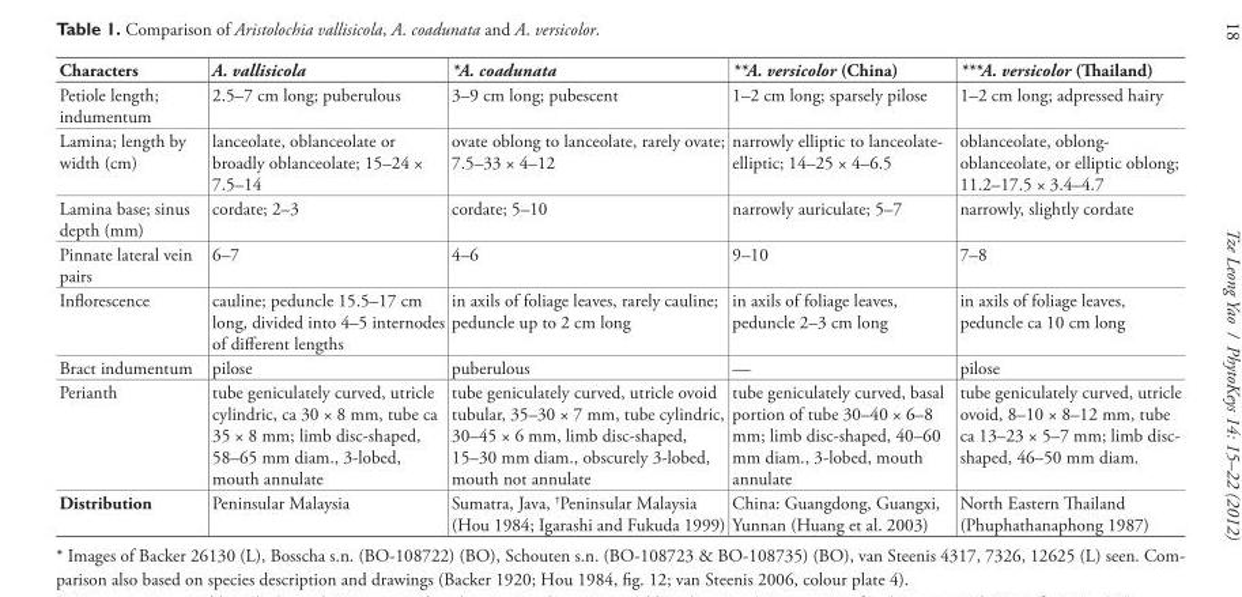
<table><thead><tr><td>Characters</td><td>A. vallisicola</td><td>*A. coadunata</td><td>**A. versicolor (China)</td><td>***A. versicolor (Th ailand)</td></tr></thead><tbody><tr><td>Petiole length; indumentum</td><td>2.5–7 cm long; puberulous</td><td>3–9 cm long; pubescent</td><td>1–2 cm long; sparsely pilose</td><td>1–2 cm long; adpressed hairy</td></tr><tr><td>Lamina; length by width (cm)</td><td>lanceolate, oblanceolate or broadly oblanceolate; 15–24 × 7.5–14</td><td>ovate oblong to lanceolate, rarely ovate; 7.5–33 × 4–12</td><td>narrowly elliptic to lanceolate- elliptic; 14–25 × 4–6.5</td><td>oblanceolate, oblong- oblanceolate, or elliptic oblong; 11.2–17.5 × 3.4–4.7</td></tr><tr><td>Lamina base; sinus depth (mm)</td><td>cordate; 2–3</td><td>cordate; 5–10</td><td>narrowly auriculate; 5–7</td><td>narrowly, slightly cordate</td></tr><tr><td>Pinnate lateral vein pairs</td><td>6–7</td><td>4–6</td><td>9–10</td><td>7–8</td></tr><tr><td>Infl orescence</td><td>cauline; peduncle 15.5–17 cm long, divided into 4–5 internodes of diff erent lengths</td><td>in axils of foliage leaves, rarely cauline; peduncle up to 2 cm long</td><td>in axils of foliage leaves, peduncle 2–3 cm long</td><td>in axils of foliage leaves, peduncle ca 10 cm long</td></tr><tr><td>Bract indumentum</td><td>pilose</td><td>puberulous</td><td>—</td><td>pilose</td></tr><tr><td>Perianth</td><td>tube geniculately curved, utricle cylindric, ca 30 × 8 mm, tube ca 35 × 8 mm; limb disc-shaped, 58–65 mm diam., 3-lobed, mouth annulate</td><td>tube geniculately curved, utricle ovoid tubular, 35–30 × 7 mm, tube cylindric, 30–45 × 6 mm, limb disc-shaped, 15–30 mm diam., obscurely 3-lobed, mouth not annulate</td><td>tube geniculately curved, basal portion of tube 30–40 × 6–8 mm; limb disc-shaped, 40–60 mm diam., 3-lobed, mouth annulate</td><td>tube geniculately curved, utricle ovoid, 8–10 × 8–12 mm, tube ca 13–23 × 5–7 mm; limb disc- shaped, 46–50 mm diam.</td></tr><tr><td>Distribution</td><td>Peninsular Malaysia</td><td>Sumatra, Java, <sup>†</sup>Peninsular Malaysia (Hou 1984; Igarashi and Fukuda 1999)</td><td>China: Guangdong, Guangxi, Yunnan (Huang et al. 2003)</td><td>North Eastern Th ailand (Phuphathanaphong 1987)</td></tr></tbody></table>